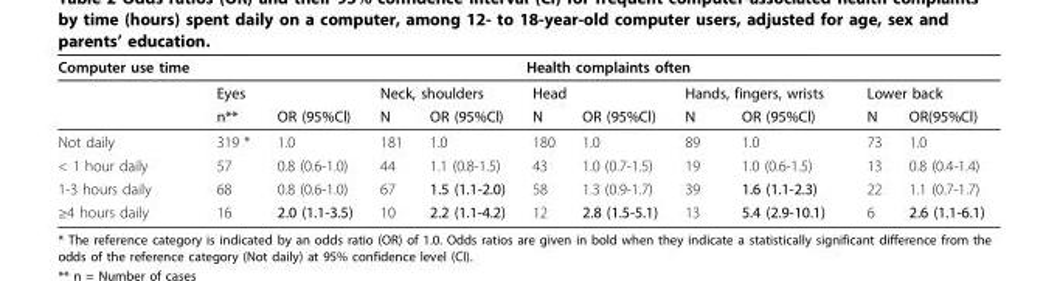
<table><thead><tr><td rowspan="3">Computer use time</td><td colspan="10">Health complaints often</td></tr><tr><td colspan="2">Eyes</td><td colspan="2">Neck, shoulders</td><td colspan="2">Head</td><td colspan="2">Hands, fingers, wrists</td><td colspan="2">Lower back</td></tr><tr><td>n**</td><td>OR (95%Cl)</td><td>N</td><td>OR (95%Cl)</td><td>N</td><td>OR (95%Cl)</td><td>N</td><td>OR (95%Cl)</td><td>N</td><td>OR(95%Cl)</td></tr></thead><tbody><tr><td>Not daily</td><td>319 *</td><td>1.0</td><td>181</td><td>1.0</td><td>180</td><td>1.0</td><td>89</td><td>1.0</td><td>73</td><td>1.0</td></tr><tr><td>&lt; 1 hour daily</td><td>57</td><td>0.8 (0.6-1.0)</td><td>44</td><td>1.1 (0.8-1.5)</td><td>43</td><td>1.0 (0.7-1.5)</td><td>19</td><td>1.0 (0.6-1.5)</td><td>13</td><td>0.8 (0.4-1.4)</td></tr><tr><td>1-3 hours daily</td><td>68</td><td>0.8 (0.6-1.0)</td><td>67</td><td>1.5 (1.1-2.0)</td><td>58</td><td>1.3 (0.9-1.7)</td><td>39</td><td>1.6 (1.1-2.3)</td><td>22</td><td>1.1 (0.7-1.7)</td></tr><tr><td>≥4 hours daily</td><td>16</td><td>2.0 (1.1-3.5)</td><td>10</td><td>2.2 (1.1-4.2)</td><td>12</td><td>2.8 (1.5-5.1)</td><td>13</td><td>5.4 (2.9-10.1)</td><td>6</td><td>2.6 (1.1-6.1)</td></tr></tbody></table>